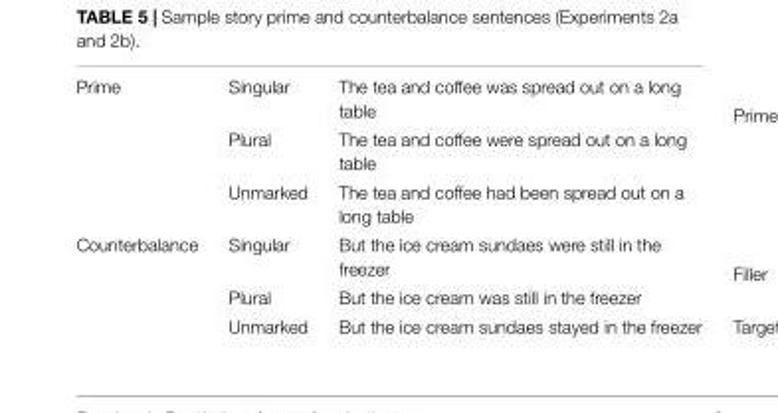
<table><tbody><tr><td rowspan="3">Prime</td><td>Singular</td><td>The tea and coffee was spread out on a long table</td></tr><tr><td>Plural</td><td>The tea and coffee were spread out on a long table</td></tr><tr><td>Unmarked</td><td>The tea and coffee had been spread out on a long table</td></tr><tr><td rowspan="3">Counterbalance</td><td>Singular</td><td>But the ice cream sundaes were still in the freezer</td></tr><tr><td>Plural</td><td>But the ice cream was still in the freezer</td></tr><tr><td>Unmarked</td><td>But the ice cream sundaes stayed in the freezer</td></tr></tbody></table>